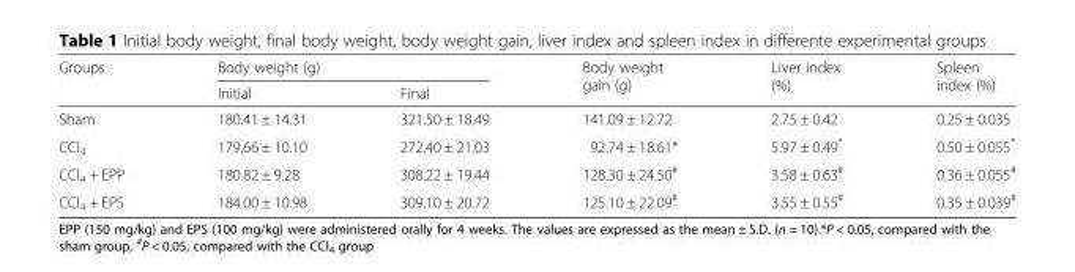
<table><thead><tr><td rowspan="2">Groups</td><td colspan="2">Body weight (g)</td><td rowspan="2">Body weight gain (g)</td><td rowspan="2">Liver index (%)</td><td rowspan="2">Spleen index (%)</td></tr><tr><td>Initial</td><td>Final</td></tr></thead><tbody><tr><td>Sham</td><td>180.41 ± 14.31</td><td>321.50 ± 18.49</td><td>141.09 ± 12.72</td><td>2.75 ± 0.42</td><td>0.25 ± 0.035</td></tr><tr><td>CCl<sub>4</sub></td><td>179.66 ± 10.10</td><td>272.40 ± 21.03</td><td>92.74 ± 18.61*</td><td>5.97 ± 0.49*</td><td>0.50 ± 0.055*</td></tr><tr><td>CCl<sub>4</sub> + EPP</td><td>180.82 ± 9.28</td><td>308.22 ± 19.44</td><td>128.30 ± 24.50<sup>#</sup></td><td>3.58 ± 0.63<sup>#</sup></td><td>0.36 ± 0.055<sup>#</sup></td></tr><tr><td>CCl<sub>4</sub> + EPS</td><td>184.00 ± 10.98</td><td>309.10 ± 20.72</td><td>125.10 ± 22.09<sup>#</sup></td><td>3.55 ± 0.55<sup>#</sup></td><td>0.35 ± 0.039<sup>#</sup></td></tr></tbody></table>